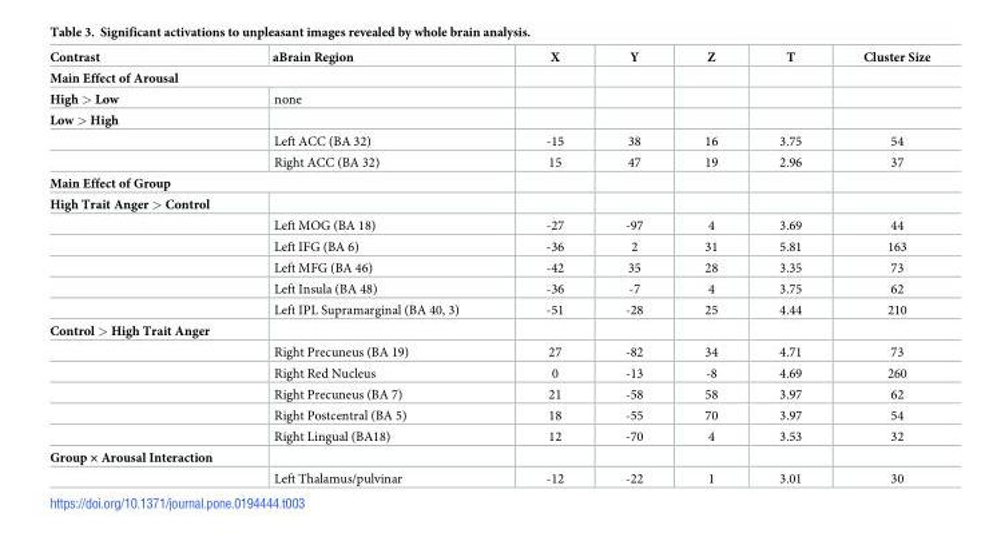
<table><thead><tr><td>Contrast</td><td>aBrain Region</td><td>X</td><td>Y</td><td>Z</td><td>T</td><td>Cluster Size</td></tr></thead><tbody><tr><td colspan="7">Main Effect of Arousal</td></tr><tr><td>High &gt; Low</td><td>none</td><td></td><td></td><td></td><td></td><td></td></tr><tr><td colspan="7">Low &gt; High</td></tr><tr><td></td><td>Left ACC (BA 32)</td><td>-15</td><td>38</td><td>16</td><td>3.75</td><td>54</td></tr><tr><td></td><td>Right ACC (BA 32)</td><td>15</td><td>47</td><td>19</td><td>2.96</td><td>37</td></tr><tr><td colspan="7">Main Effect of Group</td></tr><tr><td colspan="7">High Trait Anger &gt; Control</td></tr><tr><td></td><td>Left MOG (BA 18)</td><td>-27</td><td>-97</td><td>4</td><td>3.69</td><td>44</td></tr><tr><td></td><td>Left IFG (BA 6)</td><td>-36</td><td>2</td><td>31</td><td>5.81</td><td>163</td></tr><tr><td></td><td>Left MFG (BA 46)</td><td>-42</td><td>35</td><td>28</td><td>3.35</td><td>73</td></tr><tr><td></td><td>Left Insula (BA 48)</td><td>-36</td><td>-7</td><td>4</td><td>3.75</td><td>62</td></tr><tr><td></td><td>Left IPL Supramarginal (BA 40, 3)</td><td>-51</td><td>-28</td><td>25</td><td>4.44</td><td>210</td></tr><tr><td colspan="7">Control &gt; High Trait Anger</td></tr><tr><td></td><td>Right Precuneus (BA 19)</td><td>27</td><td>-82</td><td>34</td><td>4.71</td><td>73</td></tr><tr><td></td><td>Right Red Nucleus</td><td>0</td><td>-13</td><td>-8</td><td>4.69</td><td>260</td></tr><tr><td></td><td>Right Precuneus (BA 7)</td><td>21</td><td>-58</td><td>58</td><td>3.97</td><td>62</td></tr><tr><td></td><td>Right Postcentral (BA 5)</td><td>18</td><td>-55</td><td>70</td><td>3.97</td><td>54</td></tr><tr><td></td><td>Right Lingual (BA18)</td><td>12</td><td>-70</td><td>4</td><td>3.53</td><td>32</td></tr><tr><td colspan="7">Group × Arousal Interaction</td></tr><tr><td></td><td>Left Thalamus/pulvinar</td><td>-12</td><td>-22</td><td>1</td><td>3.01</td><td>30</td></tr></tbody></table>